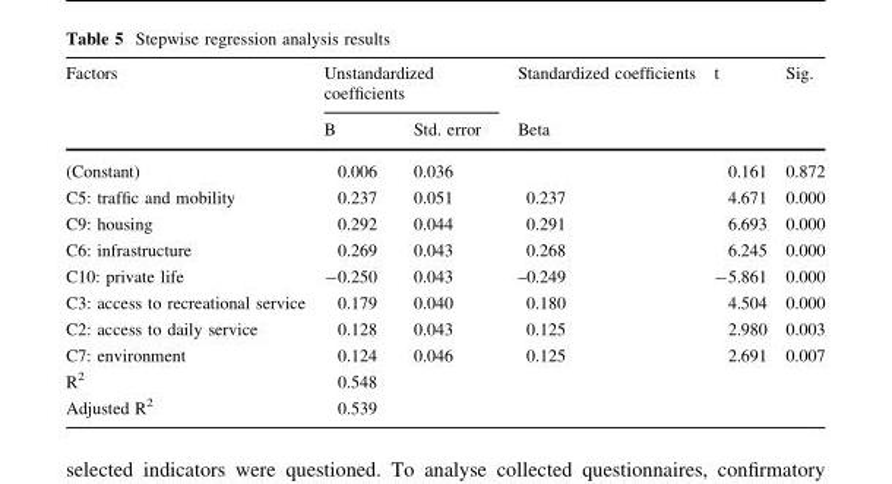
<table><thead><tr><td rowspan="2">Factors</td><td colspan="2">Unstandardized coefficients</td><td rowspan="2">Standardized coefficients Beta</td><td rowspan="2">t</td><td rowspan="2">Sig.</td></tr><tr><td>B</td><td>Std. error</td></tr></thead><tbody><tr><td>(Constant)</td><td>0.006</td><td>0.036</td><td></td><td>0.161</td><td>0.872</td></tr><tr><td>C5: traffic and mobility</td><td>0.237</td><td>0.051</td><td>0.237</td><td>4.671</td><td>0.000</td></tr><tr><td>C9: housing</td><td>0.292</td><td>0.044</td><td>0.291</td><td>6.693</td><td>0.000</td></tr><tr><td>C6: infrastructure</td><td>0.269</td><td>0.043</td><td>0.268</td><td>6.245</td><td>0.000</td></tr><tr><td>C10: private life</td><td>-0.250</td><td>0.043</td><td>–0.249</td><td>-5.861</td><td>0.000</td></tr><tr><td>C3: access to recreational service</td><td>0.179</td><td>0.040</td><td>0.180</td><td>4.504</td><td>0.000</td></tr><tr><td>C2: access to daily service</td><td>0.128</td><td>0.043</td><td>0.125</td><td>2.980</td><td>0.003</td></tr><tr><td>C7: environment</td><td>0.124</td><td>0.046</td><td>0.125</td><td>2.691</td><td>0.007</td></tr><tr><td>R<sup>2</sup></td><td colspan="5">0.548</td></tr><tr><td>Adjusted R<sup>2</sup></td><td colspan="5">0.539</td></tr></tbody></table>